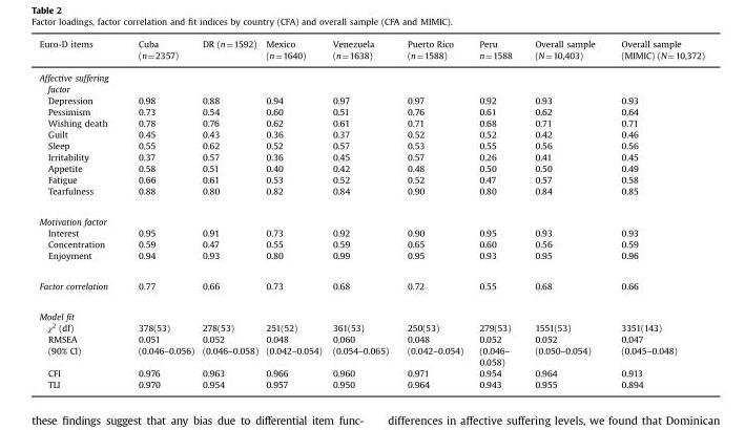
<table><thead><tr><td>Euro-D items</td><td>Cuba (n=2357)</td><td>DR (n=1592)</td><td>Mexico (n=1640)</td><td>Venezuela (n=1638)</td><td>Puerto Rico (n=1588)</td><td>Peru n=1588</td><td>Overall sample (N=10,403)</td><td>Overall sample (MIMIC) (N=10,372)</td></tr></thead><tbody><tr><td colspan="9">Affective suffering factor</td></tr><tr><td>Depression</td><td>0.98</td><td>0.88</td><td>0.94</td><td>0.97</td><td>0.97</td><td>0.92</td><td>0.93</td><td>0.93</td></tr><tr><td>Pessimism</td><td>0.73</td><td>0.54</td><td>0.60</td><td>0.51</td><td>0.76</td><td>0.61</td><td>0.62</td><td>0.64</td></tr><tr><td>Wishing death</td><td>0.78</td><td>0.76</td><td>0.62</td><td>0.61</td><td>0.71</td><td>0.68</td><td>0.71</td><td>0.71</td></tr><tr><td>Guilt</td><td>0.45</td><td>0.43</td><td>0.36</td><td>0.37</td><td>0.52</td><td>0.52</td><td>0.42</td><td>0.46</td></tr><tr><td>Sleep</td><td>0.55</td><td>0.62</td><td>0.52</td><td>0.57</td><td>0.53</td><td>0.55</td><td>0.56</td><td>0.56</td></tr><tr><td>Irritability</td><td>0.37</td><td>0.57</td><td>0.36</td><td>0.45</td><td>0.57</td><td>0.26</td><td>0.41</td><td>0.45</td></tr><tr><td>Appetite</td><td>0.58</td><td>0.51</td><td>0.40</td><td>0.42</td><td>0.48</td><td>0.50</td><td>0.50</td><td>0.49</td></tr><tr><td>Fatigue</td><td>0.66</td><td>0.61</td><td>0.53</td><td>0.52</td><td>0.52</td><td>0.47</td><td>0.57</td><td>0.58</td></tr><tr><td>Tearfulness</td><td>0.88</td><td>0.80</td><td>0.82</td><td>0.84</td><td>0.90</td><td>0.80</td><td>0.84</td><td>0.85</td></tr><tr><td colspan="9">Motivation factor</td></tr><tr><td>Interest</td><td>0.95</td><td>0.91</td><td>0.73</td><td>0.92</td><td>0.90</td><td>0.95</td><td>0.93</td><td>0.93</td></tr><tr><td>Concentration</td><td>0.59</td><td>0.47</td><td>0.55</td><td>0.59</td><td>0.65</td><td>0.60</td><td>0.56</td><td>0.59</td></tr><tr><td>Enjoyment</td><td>0.94</td><td>0.93</td><td>0.80</td><td>0.99</td><td>0.95</td><td>0.93</td><td>0.95</td><td>0.96</td></tr><tr><td>Factor correlation</td><td>0.77</td><td>0.66</td><td>0.73</td><td>0.68</td><td>0.72</td><td>0.55</td><td>0.68</td><td>0.66</td></tr><tr><td colspan="9">Model fit</td></tr><tr><td>χ<sup>2</sup> (df)</td><td>378(53)</td><td>278(53)</td><td>251(52)</td><td>361(53)</td><td>250(53)</td><td>279(53)</td><td>1551(53)</td><td>3351(143)</td></tr><tr><td>RMSEA</td><td>0.051</td><td>0.052</td><td>0.048</td><td>0.060</td><td>0.048</td><td>0.052</td><td>0.052</td><td>0.047</td></tr><tr><td>(90% CI)</td><td>(0.046–0.056)</td><td>(0.046–0.058)</td><td>(0.042–0.054)</td><td>(0.054–0.065)</td><td>(0.042–0.054)</td><td>(0.046– 0.058)</td><td>(0.050–0.054)</td><td>(0.045–0.048)</td></tr><tr><td>CFI</td><td>0.976</td><td>0.963</td><td>0.966</td><td>0.960</td><td>0.971</td><td>0.954</td><td>0.964</td><td>0.913</td></tr><tr><td>TLI</td><td>0.970</td><td>0.954</td><td>0.957</td><td>0.950</td><td>0.964</td><td>0.943</td><td>0.955</td><td>0.894</td></tr></tbody></table>